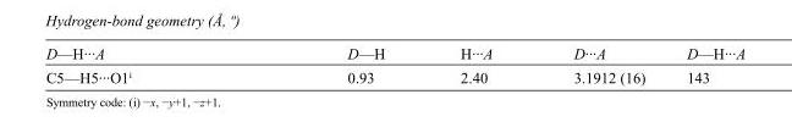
<table><tbody><tr><td>D—H···A</td><td>D—H</td><td>H···A</td><td>D···A</td><td>D—H···A</td></tr><tr><td>C5—H5···O1<sup>i</sup></td><td>0.93</td><td>2.40</td><td>3.1912 (16)</td><td>143</td></tr></tbody></table>